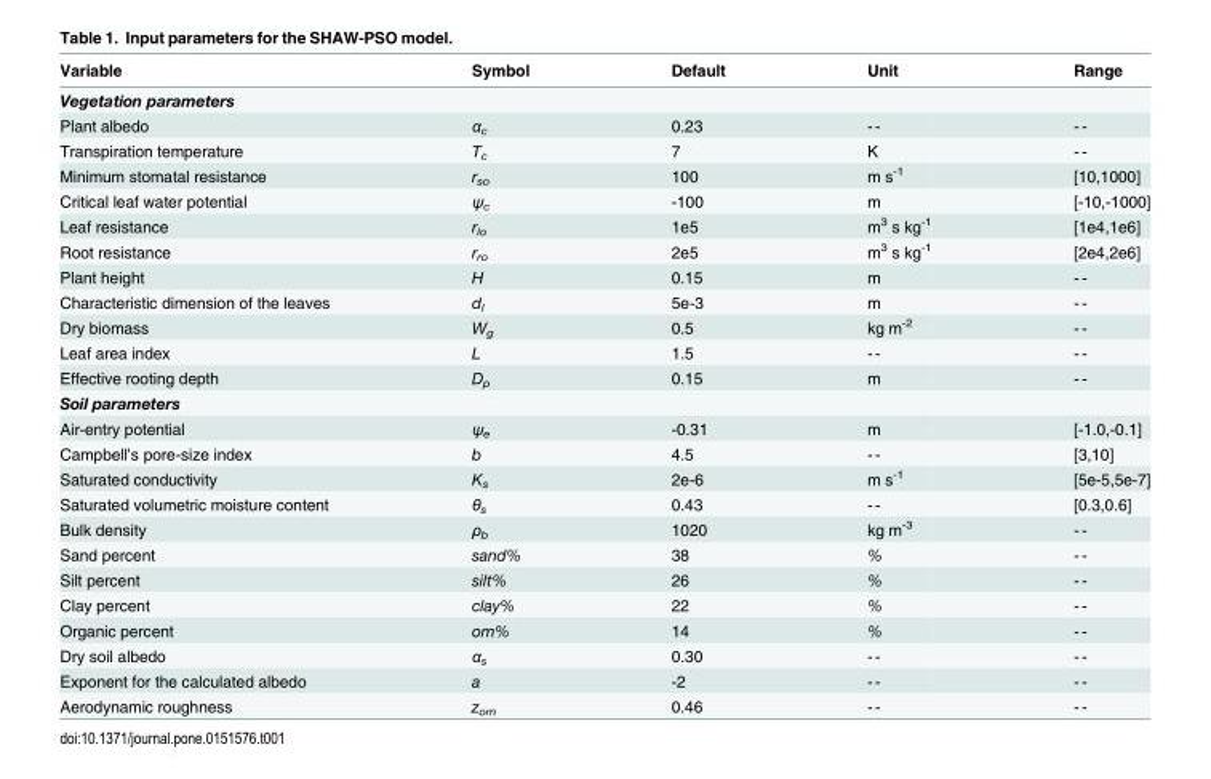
<table><thead><tr><td>Variable</td><td>Symbol</td><td>Default</td><td>Unit</td><td>Range</td></tr></thead><tbody><tr><td colspan="5">Vegetation parameters</td></tr><tr><td>Plant albedo</td><td>α<sub>c</sub></td><td>0.23</td><td>- -</td><td>- -</td></tr><tr><td>Transpiration temperature</td><td>T<sub>c</sub></td><td>7</td><td>K</td><td>- -</td></tr><tr><td>Minimum stomatal resistance</td><td>r<sub>so</sub></td><td>100</td><td>m s<sup>-1</sup></td><td>[10,1000]</td></tr><tr><td>Critical leaf water potential</td><td>ψ<sub>c</sub></td><td>-100</td><td>m</td><td>[-10,-1000]</td></tr><tr><td>Leaf resistance</td><td>r<sub>lo</sub></td><td>1e5</td><td>m<sup>3</sup> s kg<sup>-1</sup></td><td>[1e4,1e6]</td></tr><tr><td>Root resistance</td><td>r<sub>ro</sub></td><td>2e5</td><td>m<sup>3</sup> s kg<sup>-1</sup></td><td>[2e4,2e6]</td></tr><tr><td>Plant height</td><td>H</td><td>0.15</td><td>m</td><td>- -</td></tr><tr><td>Characteristic dimension of the leaves</td><td>d<sub>l</sub></td><td>5e-3</td><td>m</td><td>- -</td></tr><tr><td>Dry biomass</td><td>W<sub>g</sub></td><td>0.5</td><td>kg m<sup>-2</sup></td><td>- -</td></tr><tr><td>Leaf area index</td><td>L</td><td>1.5</td><td>- -</td><td>- -</td></tr><tr><td>Effective rooting depth</td><td>D<sub>p</sub></td><td>0.15</td><td>m</td><td>- -</td></tr><tr><td colspan="5">Soil parameters</td></tr><tr><td>Air-entry potential</td><td>ψ<sub>e</sub></td><td>-0.31</td><td>m</td><td>[-1.0,-0.1]</td></tr><tr><td>Campbell’s pore-size index</td><td>b</td><td>4.5</td><td>- -</td><td>[3,10]</td></tr><tr><td>Saturated conductivity</td><td>K<sub>s</sub></td><td>2e-6</td><td>m s<sup>-1</sup></td><td>[5e-5,5e-7]</td></tr><tr><td>Saturated volumetric moisture content</td><td>θ<sub>s</sub></td><td>0.43</td><td>- -</td><td>[0.3,0.6]</td></tr><tr><td>Bulk density</td><td>ρ<sub>b</sub></td><td>1020</td><td>kg m<sup>-3</sup></td><td>- -</td></tr><tr><td>Sand percent</td><td>sand%</td><td>38</td><td>%</td><td>- -</td></tr><tr><td>Silt percent</td><td>silt%</td><td>26</td><td>%</td><td>- -</td></tr><tr><td>Clay percent</td><td>clay%</td><td>22</td><td>%</td><td>- -</td></tr><tr><td>Organic percent</td><td>om%</td><td>14</td><td>%</td><td>- -</td></tr><tr><td>Dry soil albedo</td><td>α<sub>s</sub></td><td>0.30</td><td>- -</td><td>- -</td></tr><tr><td>Exponent for the calculated albedo</td><td>a</td><td>-2</td><td>- -</td><td>- -</td></tr><tr><td>Aerodynamic roughness</td><td>z<sub>om</sub></td><td>0.46</td><td>- -</td><td>- -</td></tr></tbody></table>